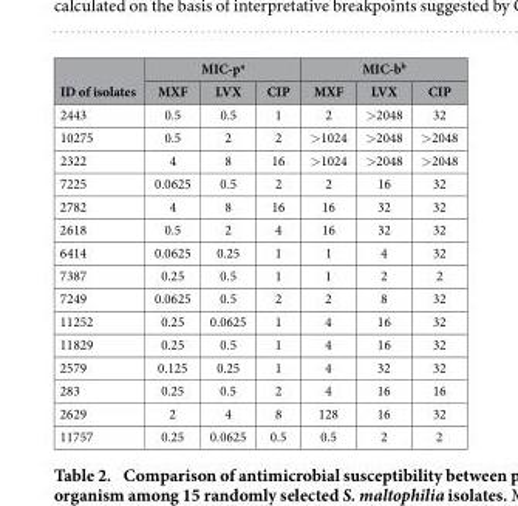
<table><thead><tr><td rowspan="2">ID of isolates</td><td colspan="3">MIC-p<sup>a</sup></td><td colspan="3">MIC-b<sup>b</sup></td></tr><tr><td>MXF</td><td>LVX</td><td>CIP</td><td>MXF</td><td>LVX</td><td>CIP</td></tr></thead><tbody><tr><td>2443</td><td>0.5</td><td>0.5</td><td>1</td><td>2</td><td>&gt; 2048</td><td>32</td></tr><tr><td>10275</td><td>0.5</td><td>2</td><td>2</td><td>&gt; 1024</td><td>&gt; 2048</td><td>&gt; 2048</td></tr><tr><td>2322</td><td>4</td><td>8</td><td>16</td><td>&gt; 1024</td><td>&gt; 2048</td><td>&gt; 2048</td></tr><tr><td>7225</td><td>0.0625</td><td>0.5</td><td>2</td><td>2</td><td>16</td><td>32</td></tr><tr><td>2782</td><td>4</td><td>8</td><td>16</td><td>16</td><td>32</td><td>32</td></tr><tr><td>2618</td><td>0.5</td><td>2</td><td>4</td><td>16</td><td>32</td><td>32</td></tr><tr><td>6414</td><td>0.0625</td><td>0.25</td><td>1</td><td>1</td><td>4</td><td>32</td></tr><tr><td>7387</td><td>0.25</td><td>0.5</td><td>1</td><td>1</td><td>2</td><td>2</td></tr><tr><td>7249</td><td>0.0625</td><td>0.5</td><td>2</td><td>2</td><td>8</td><td>32</td></tr><tr><td>11252</td><td>0.25</td><td>0.0625</td><td>1</td><td>4</td><td>16</td><td>32</td></tr><tr><td>11829</td><td>0.25</td><td>0.5</td><td>1</td><td>4</td><td>16</td><td>32</td></tr><tr><td>2579</td><td>0.125</td><td>0.25</td><td>1</td><td>4</td><td>32</td><td>32</td></tr><tr><td>283</td><td>0.25</td><td>0.5</td><td>2</td><td>4</td><td>16</td><td>16</td></tr><tr><td>2629</td><td>2</td><td>4</td><td>8</td><td>128</td><td>16</td><td>32</td></tr><tr><td>11757</td><td>0.25</td><td>0.0625</td><td>0.5</td><td>0.5</td><td>2</td><td>2</td></tr></tbody></table>